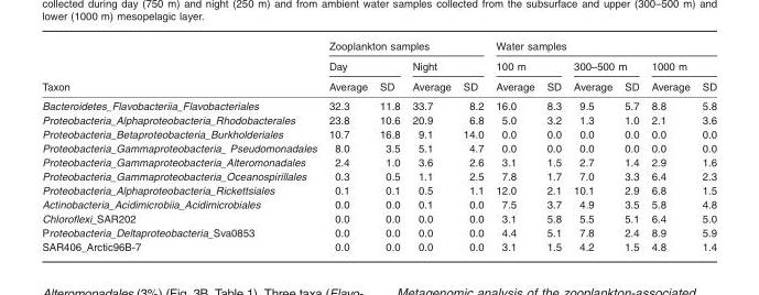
<table><thead><tr><td rowspan="3">Taxon</td><td colspan="4">Zooplankton samples</td><td colspan="6">Water samples</td></tr><tr><td colspan="2">Day</td><td colspan="2">Night</td><td colspan="2">100 m</td><td colspan="2">300–500 m</td><td colspan="2">1000 m</td></tr><tr><td>Average</td><td>SD</td><td>Average</td><td>SD</td><td>Average</td><td>SD</td><td>Average</td><td>SD</td><td>Average</td><td>SD</td></tr></thead><tbody><tr><td>Bacteroidetes_Flavobacteriia_Flavobacteriales</td><td>32.3</td><td>11.8</td><td>33.7</td><td>8.2</td><td>16.0</td><td>8.3</td><td>9.5</td><td>5.7</td><td>8.8</td><td>5.8</td></tr><tr><td>Proteobacteria_Alphaproteobacteria_Rhodobacterales</td><td>23.8</td><td>10.6</td><td>20.9</td><td>6.8</td><td>5.0</td><td>3.2</td><td>1.3</td><td>1.0</td><td>2.1</td><td>3.6</td></tr><tr><td>Proteobacteria_Betaproteobacteria_Burkholderiales</td><td>10.7</td><td>16.8</td><td>9.1</td><td>14.0</td><td>0.0</td><td>0.0</td><td>0.0</td><td>0.0</td><td>0.0</td><td>0.0</td></tr><tr><td>Proteobacteria_Gammaproteobacteria_ Pseudomonadales</td><td>8.0</td><td>3.5</td><td>5.1</td><td>4.7</td><td>0.0</td><td>0.0</td><td>0.0</td><td>0.0</td><td>0.0</td><td>0.0</td></tr><tr><td>Proteobacteria_Gammaproteobacteria_Alteromonadales</td><td>2.4</td><td>1.0</td><td>3.6</td><td>2.6</td><td>3.1</td><td>1.5</td><td>2.7</td><td>1.4</td><td>2.9</td><td>1.6</td></tr><tr><td>Proteobacteria_Gammaproteobacteria_Oceanospirillales</td><td>0.3</td><td>0.5</td><td>1.1</td><td>2.5</td><td>7.8</td><td>1.7</td><td>7.0</td><td>3.3</td><td>6.4</td><td>2.3</td></tr><tr><td>Proteobacteria_Alphaproteobacteria_Rickettsiales</td><td>0.1</td><td>0.1</td><td>0.5</td><td>1.1</td><td>12.0</td><td>2.1</td><td>10.1</td><td>2.9</td><td>6.8</td><td>1.5</td></tr><tr><td>Actinobacteria_Acidimicrobiia_Acidimicrobiales</td><td>0.0</td><td>0.0</td><td>0.1</td><td>0.0</td><td>7.5</td><td>3.7</td><td>4.9</td><td>3.5</td><td>5.8</td><td>4.8</td></tr><tr><td>Chloroflexi_SAR202</td><td>0.0</td><td>0.0</td><td>0.0</td><td>0.0</td><td>3.1</td><td>5.8</td><td>5.5</td><td>5.1</td><td>6.4</td><td>5.0</td></tr><tr><td>Proteobacteria_Deltaproteobacteria_Sva0853</td><td>0.0</td><td>0.0</td><td>0.0</td><td>0.0</td><td>4.4</td><td>5.1</td><td>7.8</td><td>2.4</td><td>8.9</td><td>5.9</td></tr><tr><td>SAR406_Arctic96B-7</td><td>0.0</td><td>0.0</td><td>0.0</td><td>0.0</td><td>3.1</td><td>1.5</td><td>4.2</td><td>1.5</td><td>4.8</td><td>1.4</td></tr></tbody></table>